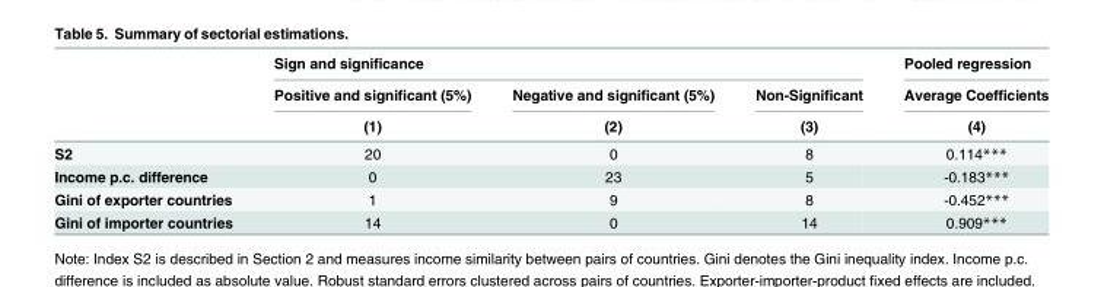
<table><thead><tr><td rowspan="3"></td><td colspan="3">Sign and significance</td><td rowspan="3">Pooled regression Average Coefficients (4)</td></tr><tr><td rowspan="2">Positive and significant (5%) (1)</td><td rowspan="2">Negative and significant (5%) (2)</td><td rowspan="2">Non-Significant (3)</td></tr><tr></tr></thead><tbody><tr><td>S2</td><td>20</td><td>0</td><td>8</td><td>0.114***</td></tr><tr><td>Income p.c. difference</td><td>0</td><td>23</td><td>5</td><td>-0.183***</td></tr><tr><td>Gini of exporter countries</td><td>1</td><td>9</td><td>8</td><td>-0.452***</td></tr><tr><td>Gini of importer countries</td><td>14</td><td>0</td><td>14</td><td>0.909***</td></tr></tbody></table>